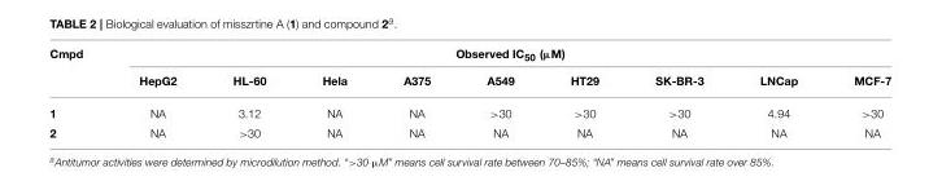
<table><thead><tr><td rowspan="2">Cmpd</td><td colspan="9">Observed IC<sub>50</sub> (µM)</td></tr><tr><td>HepG2</td><td>HL-60</td><td>Hela</td><td>A375</td><td>A549</td><td>HT29</td><td>SK-BR-3</td><td>LNCap</td><td>MCF-7</td></tr></thead><tbody><tr><td>1</td><td>NA</td><td>3.12</td><td>NA</td><td>NA</td><td>&gt;30</td><td>&gt;30</td><td>&gt;30</td><td>4.94</td><td>&gt;30</td></tr><tr><td>2</td><td>NA</td><td>&gt;30</td><td>NA</td><td>NA</td><td>NA</td><td>NA</td><td>NA</td><td>NA</td><td>NA</td></tr></tbody></table>